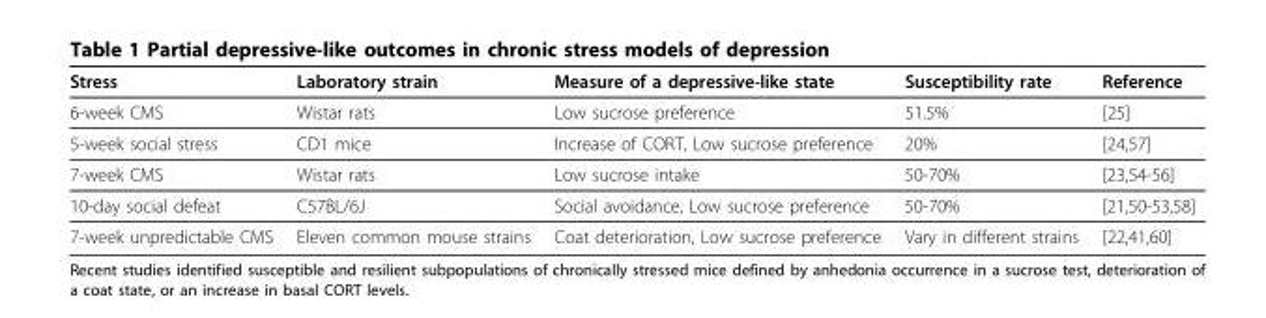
<table><thead><tr><td>Stress</td><td>Laboratory strain</td><td>Measure of a depressive-like state</td><td>Susceptibility rate</td><td>Reference</td></tr></thead><tbody><tr><td>6-week CMS</td><td>Wistar rats</td><td>Low sucrose preference</td><td>51.5%</td><td>[25]</td></tr><tr><td>5-week social stress</td><td>CD1 mice</td><td>Increase of CORT, Low sucrose preference</td><td>20%</td><td>[24,57]</td></tr><tr><td>7-week CMS</td><td>Wistar rats</td><td>Low sucrose intake</td><td>50-70%</td><td>[23,54-56]</td></tr><tr><td>10-day social defeat</td><td>C57BL/6J</td><td>Social avoidance, Low sucrose preference</td><td>50-70%</td><td>[21,50-53,58]</td></tr><tr><td>7-week unpredictable CMS</td><td>Eleven common mouse strains</td><td>Coat deterioration, Low sucrose preference</td><td>Vary in different strains</td><td>[22,41,60]</td></tr></tbody></table>